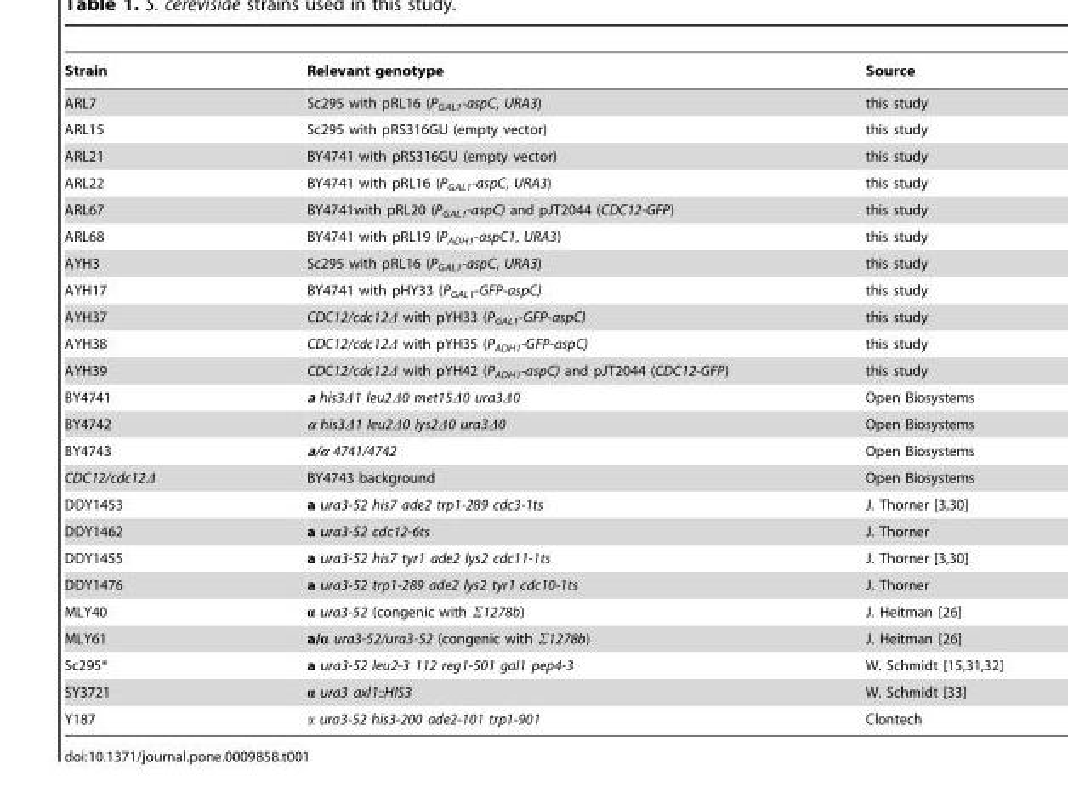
<table><thead><tr><td>Strain</td><td>Relevant genotype</td><td>Source</td></tr></thead><tbody><tr><td>ARL7</td><td>Sc295 with pRL16 (P<sub>GAL1</sub>-aspC, URA3)</td><td>this study</td></tr><tr><td>ARL15</td><td>Sc295 with pRS316GU (empty vector)</td><td>this study</td></tr><tr><td>ARL21</td><td>BY4741 with pRS316GU (empty vector)</td><td>this study</td></tr><tr><td>ARL22</td><td>BY4741 with pRL16 (P<sub>GAL1</sub>-aspC, URA3)</td><td>this study</td></tr><tr><td>ARL67</td><td>BY4741with pRL20 (P<sub>GAL1</sub>-aspC) and pJT2044 (CDC12-GFP)</td><td>this study</td></tr><tr><td>ARL68</td><td>BY4741 with pRL19 (P<sub>ADH1</sub>-aspC1, URA3)</td><td>this study</td></tr><tr><td>AYH3</td><td>Sc295 with pRL16 (P<sub>GAL1</sub>-aspC, URA3)</td><td>this study</td></tr><tr><td>AYH17</td><td>BY4741 with pHY33 (P<sub>GAL1</sub>-GFP-aspC)</td><td>this study</td></tr><tr><td>AYH37</td><td>CDC12/cdc12Δ with pYH33 (P<sub>GAL1</sub>-GFP-aspC)</td><td>this study</td></tr><tr><td>AYH38</td><td>CDC12/cdc12Δ with pYH35 (P<sub>ADH1</sub>-GFP-aspC)</td><td>this study</td></tr><tr><td>AYH39</td><td>CDC12/cdc12Δ with pYH42 (P<sub>ADH1</sub>-aspC) and pJT2044 (CDC12-GFP)</td><td>this study</td></tr><tr><td>BY4741</td><td>a his3Δ1 leu2Δ0 met15Δ0 ura3Δ0</td><td>Open Biosystems</td></tr><tr><td>BY4742</td><td>α his3Δ1 leu2Δ0 lys2Δ0 ura3Δ0</td><td>Open Biosystems</td></tr><tr><td>BY4743</td><td>a/α 4741/4742</td><td>Open Biosystems</td></tr><tr><td>CDC12/cdc12Δ</td><td>BY4743 background</td><td>Open Biosystems</td></tr><tr><td>DDY1453</td><td>a ura3-52 his7 ade2 trp1-289 cdc3-1ts</td><td>J. Thorner [3,30]</td></tr><tr><td>DDY1462</td><td>a ura3-52 cdc12-6ts</td><td>J. Thorner</td></tr><tr><td>DDY1455</td><td>a ura3-52 his7 tyr1 ade2 lys2 cdc11-1ts</td><td>J. Thorner [3,30]</td></tr><tr><td>DDY1476</td><td>a ura3-52 trp1-289 ade2 lys2 tyr1 cdc10-1ts</td><td>J. Thorner</td></tr><tr><td>MLY40</td><td>α ura3-52 (congenic with Σ1278b)</td><td>J. Heitman [26]</td></tr><tr><td>MLY61</td><td>a/α ura3-52/ura3-52 (congenic with Σ1278b)</td><td>J. Heitman [26]</td></tr><tr><td>Sc295*</td><td>a ura3-52 leu2-3 112 reg1-501 gal1 pep4-3</td><td>W. Schmidt [15,31,32]</td></tr><tr><td>SY3721</td><td>α ura3 axl1::HIS3</td><td>W. Schmidt [33]</td></tr><tr><td>Y187</td><td>α ura3-52 his3-200 ade2-101 trp1-901</td><td>Clontech</td></tr></tbody></table>